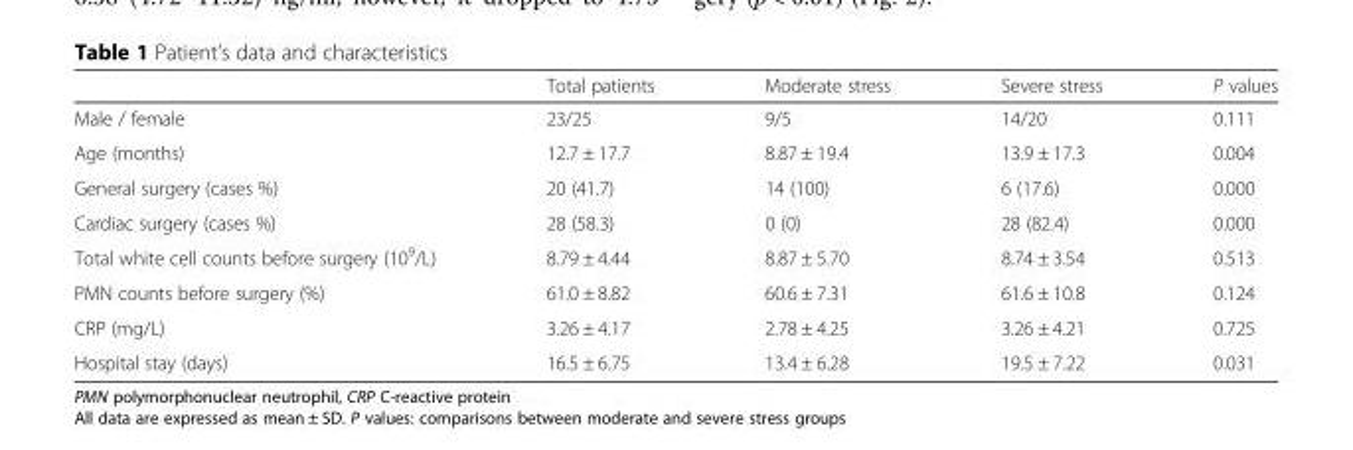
<table><thead><tr><td></td><td>Total patients</td><td>Moderate stress</td><td>Severe stress</td><td>P values</td></tr></thead><tbody><tr><td>Male / female</td><td>23/25</td><td>9/5</td><td>14/20</td><td>0.111</td></tr><tr><td>Age (months)</td><td>12.7 ± 17.7</td><td>8.87 ± 19.4</td><td>13.9 ± 17.3</td><td>0.004</td></tr><tr><td>General surgery (cases %)</td><td>20 (41.7)</td><td>14 (100)</td><td>6 (17.6)</td><td>0.000</td></tr><tr><td>Cardiac surgery (cases %)</td><td>28 (58.3)</td><td>0 (0)</td><td>28 (82.4)</td><td>0.000</td></tr><tr><td>Total white cell counts before surgery (10<sup>9</sup>/L)</td><td>8.79 ± 4.44</td><td>8.87 ± 5.70</td><td>8.74 ± 3.54</td><td>0.513</td></tr><tr><td>PMN counts before surgery (%)</td><td>61.0 ± 8.82</td><td>60.6 ± 7.31</td><td>61.6 ± 10.8</td><td>0.124</td></tr><tr><td>CRP (mg/L)</td><td>3.26 ± 4.17</td><td>2.78 ± 4.25</td><td>3.26 ± 4.21</td><td>0.725</td></tr><tr><td>Hospital stay (days)</td><td>16.5 ± 6.75</td><td>13.4 ± 6.28</td><td>19.5 ± 7.22</td><td>0.031</td></tr></tbody></table>